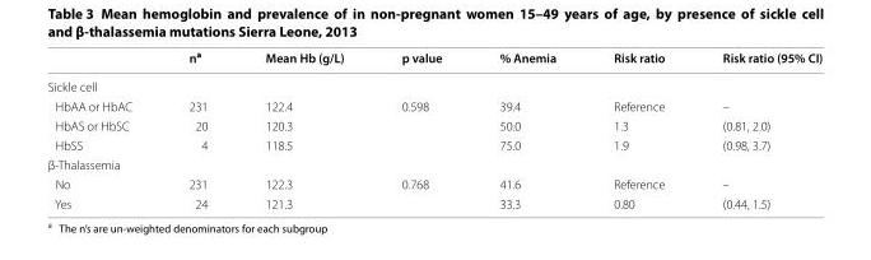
<table><thead><tr><td></td><td>n<sup>a</sup></td><td>Mean Hb (g/L)</td><td>p value</td><td>% Anemia</td><td>Risk ratio</td><td>Risk ratio (95% CI)</td></tr></thead><tbody><tr><td colspan="7">Sickle cell</td></tr><tr><td>HbAA or HbAC</td><td>231</td><td>122.4</td><td>0.598</td><td>39.4</td><td>Reference</td><td>–</td></tr><tr><td>HbAS or HbSC</td><td>20</td><td>120.3</td><td></td><td>50.0</td><td>1.3</td><td>(0.81, 2.0)</td></tr><tr><td>HbSS</td><td>4</td><td>118.5</td><td></td><td>75.0</td><td>1.9</td><td>(0.98, 3.7)</td></tr><tr><td colspan="7">β-Thalassemia</td></tr><tr><td>No</td><td>231</td><td>122.3</td><td>0.768</td><td>41.6</td><td>Reference</td><td>–</td></tr><tr><td>Yes</td><td>24</td><td>121.3</td><td></td><td>33.3</td><td>0.80</td><td>(0.44, 1.5)</td></tr></tbody></table>